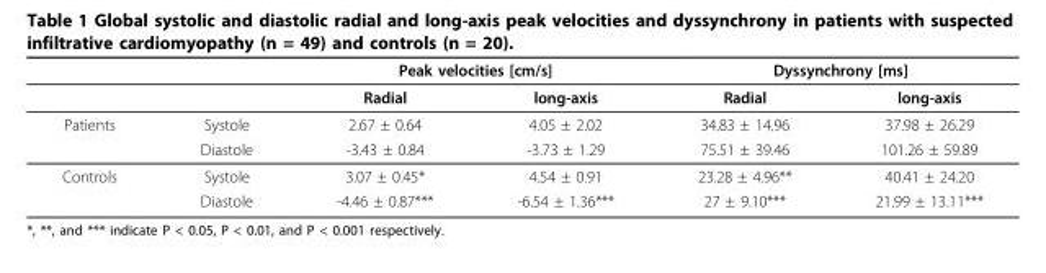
<table><thead><tr><td rowspan="2"></td><td rowspan="2"></td><td colspan="2">Peak velocities [cm/s]</td><td colspan="2">Dyssynchrony [ms]</td></tr><tr><td>Radial</td><td>long-axis</td><td>Radial</td><td>long-axis</td></tr></thead><tbody><tr><td rowspan="2">Patients</td><td>Systole</td><td>2.67 ± 0.64</td><td>4.05 ± 2.02</td><td>34.83 ± 14.96</td><td>37.98 ± 26.29</td></tr><tr><td>Diastole</td><td>-3.43 ± 0.84</td><td>-3.73 ± 1.29</td><td>75.51 ± 39.46</td><td>101.26 ± 59.89</td></tr><tr><td rowspan="2">Controls</td><td>Systole</td><td>3.07 ± 0.45*</td><td>4.54 ± 0.91</td><td>23.28 ± 4.96**</td><td>40.41 ± 24.20</td></tr><tr><td>Diastole</td><td>-4.46 ± 0.87***</td><td>-6.54 ± 1.36***</td><td>27 ± 9.10***</td><td>21.99 ± 13.11***</td></tr></tbody></table>